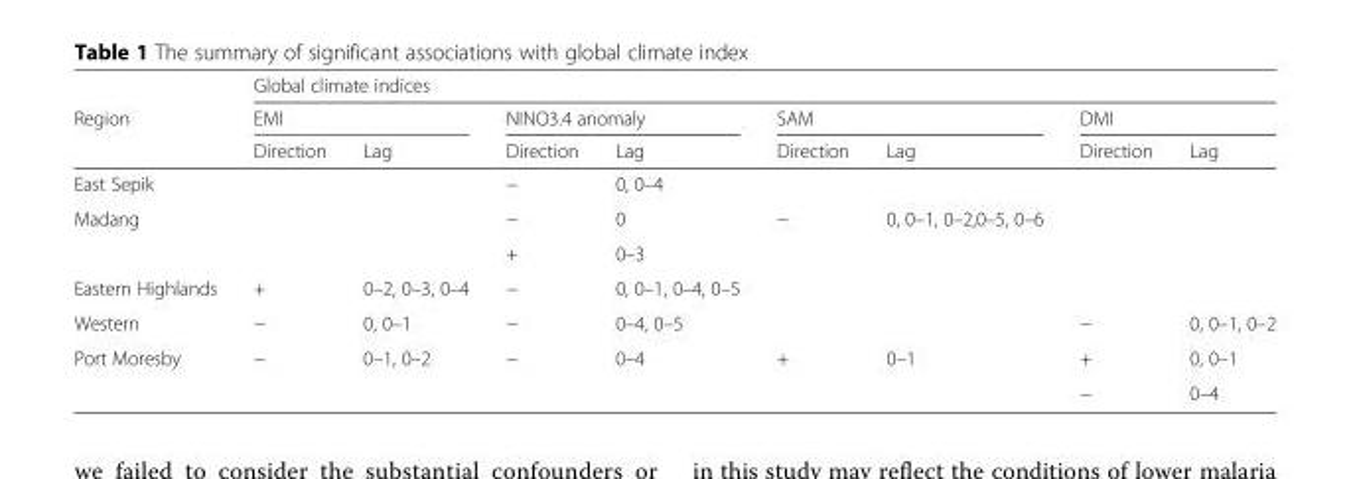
<table><thead><tr><td rowspan="3">Region</td><td colspan="8">Global climate indices</td></tr><tr><td colspan="2">EMI</td><td colspan="2">NINO3.4 anomaly</td><td colspan="2">SAM</td><td colspan="2">DMI</td></tr><tr><td>Direction</td><td>Lag</td><td>Direction</td><td>Lag</td><td>Direction</td><td>Lag</td><td>Direction</td><td>Lag</td></tr></thead><tbody><tr><td>East Sepik</td><td></td><td></td><td>−</td><td>0, 0–4</td><td></td><td></td><td></td><td></td></tr><tr><td rowspan="2">Madang</td><td rowspan="2"></td><td rowspan="2"></td><td>−</td><td>0</td><td rowspan="2">−</td><td rowspan="2">0, 0–1, 0–2,0–5, 0–6</td><td rowspan="2"></td><td rowspan="2"></td></tr><tr><td>+</td><td>0–3</td></tr><tr><td>Eastern Highlands</td><td>+</td><td>0–2, 0–3, 0–4</td><td>−</td><td>0, 0–1, 0–4, 0–5</td><td></td><td></td><td></td><td></td></tr><tr><td>Western</td><td>−</td><td>0, 0–1</td><td>−</td><td>0–4, 0–5</td><td></td><td></td><td>−</td><td>0, 0–1, 0–2</td></tr><tr><td rowspan="2">Port Moresby</td><td rowspan="2">−</td><td rowspan="2">0–1, 0–2</td><td rowspan="2">−</td><td rowspan="2">0–4</td><td rowspan="2">+</td><td rowspan="2">0–1</td><td>+</td><td>0, 0–1</td></tr><tr><td>−</td><td>0–4</td></tr></tbody></table>